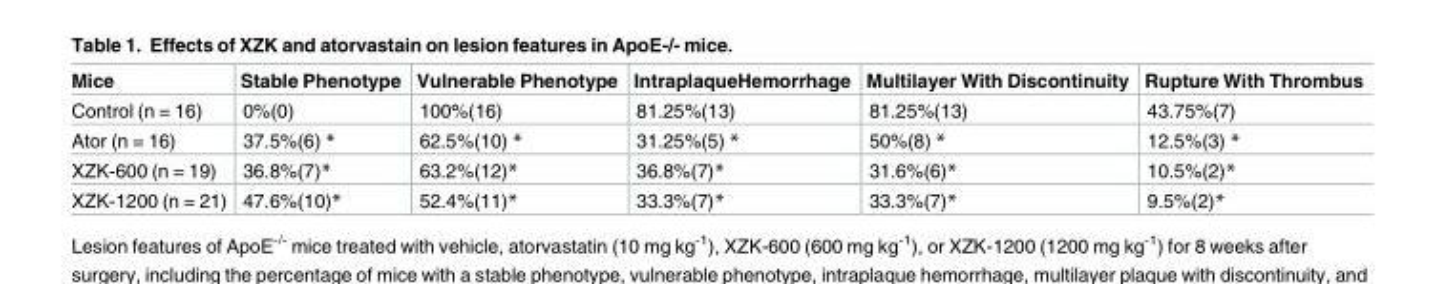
<table><thead><tr><td>Mice</td><td>Stable Phenotype</td><td>Vulnerable Phenotype</td><td>IntraplaqueHemorrhage</td><td>Multilayer With Discontinuity</td><td>Rupture With Thrombus</td></tr></thead><tbody><tr><td>Control (n = 16)</td><td>0%(0)</td><td>100%(16)</td><td>81.25%(13)</td><td>81.25%(13)</td><td>43.75%(7)</td></tr><tr><td>Ator (n = 16)</td><td>37.5%(6) *</td><td>62.5%(10) *</td><td>31.25%(5) *</td><td>50%(8) *</td><td>12.5%(3) *</td></tr><tr><td>XZK-600 (n = 19)</td><td>36.8%(7)*</td><td>63.2%(12)*</td><td>36.8%(7)*</td><td>31.6%(6)*</td><td>10.5%(2)*</td></tr><tr><td>XZK-1200 (n = 21)</td><td>47.6%(10)*</td><td>52.4%(11)*</td><td>33.3%(7)*</td><td>33.3%(7)*</td><td>9.5%(2)*</td></tr></tbody></table>